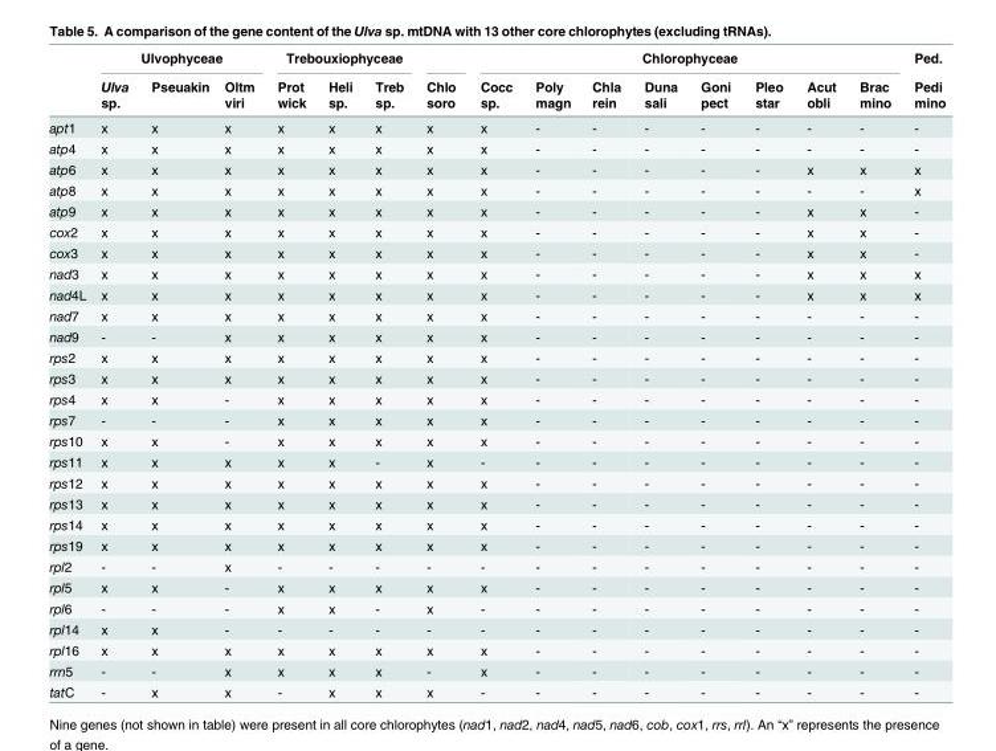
<table><thead><tr><td rowspan="2"></td><td colspan="3">Ulvophyceae</td><td colspan="3">Trebouxiophyceae</td><td rowspan="2">Chlo soro</td><td colspan="8">Chlorophyceae</td><td rowspan="2">Ped. Pedi mino</td></tr><tr><td>Ulva sp.</td><td>Pseuakin</td><td>Oltm viri</td><td>Prot wick</td><td>Heli sp.</td><td>Treb sp.</td><td>Cocc sp.</td><td>Poly magn</td><td>Chla rein</td><td>Duna sali</td><td>Goni pect</td><td>Pleo star</td><td>Acut obli</td><td>Brac mino</td></tr></thead><tbody><tr><td>apt1</td><td>x</td><td>x</td><td>x</td><td>x</td><td>x</td><td>x</td><td>x</td><td>x</td><td>-</td><td>-</td><td>-</td><td>-</td><td>-</td><td>-</td><td>-</td><td>-</td></tr><tr><td>atp4</td><td>x</td><td>x</td><td>x</td><td>x</td><td>x</td><td>x</td><td>x</td><td>x</td><td>-</td><td>-</td><td>-</td><td>-</td><td>-</td><td>-</td><td>-</td><td>-</td></tr><tr><td>atp6</td><td>x</td><td>x</td><td>x</td><td>x</td><td>x</td><td>x</td><td>x</td><td>x</td><td>-</td><td>-</td><td>-</td><td>-</td><td>-</td><td>x</td><td>x</td><td>x</td></tr><tr><td>atp8</td><td>x</td><td>x</td><td>x</td><td>x</td><td>x</td><td>x</td><td>x</td><td>x</td><td>-</td><td>-</td><td>-</td><td>-</td><td>-</td><td>-</td><td>-</td><td>x</td></tr><tr><td>atp9</td><td>x</td><td>x</td><td>x</td><td>x</td><td>x</td><td>x</td><td>x</td><td>x</td><td>-</td><td>-</td><td>-</td><td>-</td><td>-</td><td>x</td><td>x</td><td>-</td></tr><tr><td>cox2</td><td>x</td><td>x</td><td>x</td><td>x</td><td>x</td><td>x</td><td>x</td><td>x</td><td>-</td><td>-</td><td>-</td><td>-</td><td>-</td><td>x</td><td>x</td><td>-</td></tr><tr><td>cox3</td><td>x</td><td>x</td><td>x</td><td>x</td><td>x</td><td>x</td><td>x</td><td>x</td><td>-</td><td>-</td><td>-</td><td>-</td><td>-</td><td>x</td><td>x</td><td>-</td></tr><tr><td>nad3</td><td>x</td><td>x</td><td>x</td><td>x</td><td>x</td><td>x</td><td>x</td><td>x</td><td>-</td><td>-</td><td>-</td><td>-</td><td>-</td><td>x</td><td>x</td><td>x</td></tr><tr><td>nad4L</td><td>x</td><td>x</td><td>x</td><td>x</td><td>x</td><td>x</td><td>x</td><td>x</td><td>-</td><td>-</td><td>-</td><td>-</td><td>-</td><td>x</td><td>x</td><td>x</td></tr><tr><td>nad7</td><td>x</td><td>x</td><td>x</td><td>x</td><td>x</td><td>x</td><td>x</td><td>x</td><td>-</td><td>-</td><td>-</td><td>-</td><td>-</td><td>-</td><td>-</td><td>-</td></tr><tr><td>nad9</td><td>-</td><td>-</td><td>x</td><td>x</td><td>x</td><td>x</td><td>x</td><td>x</td><td>-</td><td>-</td><td>-</td><td>-</td><td>-</td><td>-</td><td>-</td><td>-</td></tr><tr><td>rps2</td><td>x</td><td>x</td><td>x</td><td>x</td><td>x</td><td>x</td><td>x</td><td>x</td><td>-</td><td>-</td><td>-</td><td>-</td><td>-</td><td>-</td><td>-</td><td>-</td></tr><tr><td>rps3</td><td>x</td><td>x</td><td>x</td><td>x</td><td>x</td><td>x</td><td>x</td><td>x</td><td>-</td><td>-</td><td>-</td><td>-</td><td>-</td><td>-</td><td>-</td><td>-</td></tr><tr><td>rps4</td><td>x</td><td>x</td><td>-</td><td>x</td><td>x</td><td>x</td><td>x</td><td>x</td><td>-</td><td>-</td><td>-</td><td>-</td><td>-</td><td>-</td><td>-</td><td>-</td></tr><tr><td>rps7</td><td>-</td><td>-</td><td>-</td><td>x</td><td>x</td><td>x</td><td>x</td><td>x</td><td>-</td><td>-</td><td>-</td><td>-</td><td>-</td><td>-</td><td>-</td><td>-</td></tr><tr><td>rps10</td><td>x</td><td>x</td><td>-</td><td>x</td><td>x</td><td>x</td><td>x</td><td>x</td><td>-</td><td>-</td><td>-</td><td>-</td><td>-</td><td>-</td><td>-</td><td>-</td></tr><tr><td>rps11</td><td>x</td><td>x</td><td>x</td><td>x</td><td>x</td><td>-</td><td>x</td><td>-</td><td>-</td><td>-</td><td>-</td><td>-</td><td>-</td><td>-</td><td>-</td><td>-</td></tr><tr><td>rps12</td><td>x</td><td>x</td><td>x</td><td>x</td><td>x</td><td>x</td><td>x</td><td>x</td><td>-</td><td>-</td><td>-</td><td>-</td><td>-</td><td>-</td><td>-</td><td>-</td></tr><tr><td>rps13</td><td>x</td><td>x</td><td>x</td><td>x</td><td>x</td><td>x</td><td>x</td><td>x</td><td>-</td><td>-</td><td>-</td><td>-</td><td>-</td><td>-</td><td>-</td><td>-</td></tr><tr><td>rps14</td><td>x</td><td>x</td><td>x</td><td>x</td><td>x</td><td>x</td><td>x</td><td>x</td><td>-</td><td>-</td><td>-</td><td>-</td><td>-</td><td>-</td><td>-</td><td>-</td></tr><tr><td>rps19</td><td>x</td><td>x</td><td>x</td><td>x</td><td>x</td><td>x</td><td>x</td><td>x</td><td>-</td><td>-</td><td>-</td><td>-</td><td>-</td><td>-</td><td>-</td><td>-</td></tr><tr><td>rpl2</td><td>-</td><td>-</td><td>x</td><td>-</td><td>-</td><td>-</td><td>-</td><td>-</td><td>-</td><td>-</td><td>-</td><td>-</td><td>-</td><td>-</td><td>-</td><td>-</td></tr><tr><td>rpl5</td><td>x</td><td>x</td><td>-</td><td>x</td><td>x</td><td>x</td><td>x</td><td>x</td><td>-</td><td>-</td><td>-</td><td>-</td><td>-</td><td>-</td><td>-</td><td>-</td></tr><tr><td>rpl6</td><td>-</td><td>-</td><td>-</td><td>x</td><td>x</td><td>-</td><td>x</td><td>-</td><td>-</td><td>-</td><td>-</td><td>-</td><td>-</td><td>-</td><td>-</td><td>-</td></tr><tr><td>rpl14</td><td>x</td><td>x</td><td>-</td><td>-</td><td>-</td><td>-</td><td>-</td><td>-</td><td>-</td><td>-</td><td>-</td><td>-</td><td>-</td><td>-</td><td>-</td><td>-</td></tr><tr><td>rpl16</td><td>x</td><td>x</td><td>x</td><td>x</td><td>x</td><td>x</td><td>x</td><td>x</td><td>-</td><td>-</td><td>-</td><td>-</td><td>-</td><td>-</td><td>-</td><td>-</td></tr><tr><td>rrn5</td><td>-</td><td>-</td><td>x</td><td>x</td><td>x</td><td>x</td><td>-</td><td>x</td><td>-</td><td>-</td><td>-</td><td>-</td><td>-</td><td>-</td><td>-</td><td>-</td></tr><tr><td>tatC</td><td>-</td><td>x</td><td>x</td><td>-</td><td>x</td><td>x</td><td>x</td><td>-</td><td>-</td><td>-</td><td>-</td><td>-</td><td>-</td><td>-</td><td>-</td><td>-</td></tr></tbody></table>